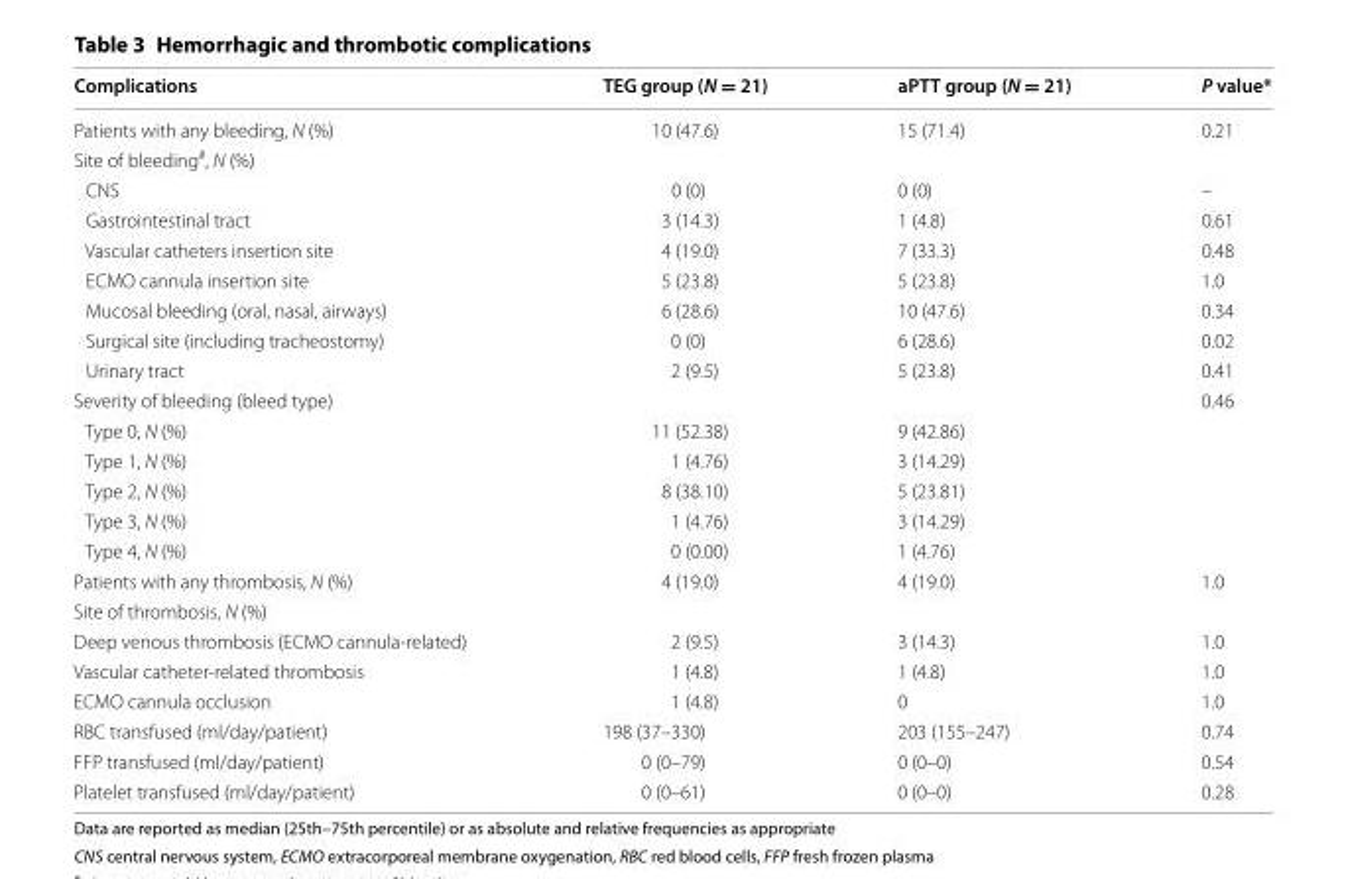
<table><thead><tr><td>Complications</td><td>TEG group (N = 21)</td><td>aPTT group (N = 21)</td><td>P value*</td></tr></thead><tbody><tr><td>Patients with any bleeding, N (%)</td><td>10 (47.6)</td><td>15 (71.4)</td><td>0.21</td></tr><tr><td colspan="4">Site of bleeding<sup>#</sup>, N (%)</td></tr><tr><td>CNS</td><td>0 (0)</td><td>0 (0)</td><td>–</td></tr><tr><td>Gastrointestinal tract</td><td>3 (14.3)</td><td>1 (4.8)</td><td>0.61</td></tr><tr><td>Vascular catheters insertion site</td><td>4 (19.0)</td><td>7 (33.3)</td><td>0.48</td></tr><tr><td>ECMO cannula insertion site</td><td>5 (23.8)</td><td>5 (23.8)</td><td>1.0</td></tr><tr><td>Mucosal bleeding (oral, nasal, airways)</td><td>6 (28.6)</td><td>10 (47.6)</td><td>0.34</td></tr><tr><td>Surgical site (including tracheostomy)</td><td>0 (0)</td><td>6 (28.6)</td><td>0.02</td></tr><tr><td>Urinary tract</td><td>2 (9.5)</td><td>5 (23.8)</td><td>0.41</td></tr><tr><td>Severity of bleeding (bleed type)</td><td></td><td></td><td>0.46</td></tr><tr><td>Type 0, N (%)</td><td>11 (52.38)</td><td>9 (42.86)</td><td></td></tr><tr><td>Type 1, N (%)</td><td>1 (4.76)</td><td>3 (14.29)</td><td></td></tr><tr><td>Type 2, N (%)</td><td>8 (38.10)</td><td>5 (23.81)</td><td></td></tr><tr><td>Type 3, N (%)</td><td>1 (4.76)</td><td>3 (14.29)</td><td></td></tr><tr><td>Type 4, N (%)</td><td>0 (0.00)</td><td>1 (4.76)</td><td></td></tr><tr><td>Patients with any thrombosis, N (%)</td><td>4 (19.0)</td><td>4 (19.0)</td><td>1.0</td></tr><tr><td colspan="4">Site of thrombosis, N (%)</td></tr><tr><td>Deep venous thrombosis (ECMO cannula-related)</td><td>2 (9.5)</td><td>3 (14.3)</td><td>1.0</td></tr><tr><td>Vascular catheter-related thrombosis</td><td>1 (4.8)</td><td>1 (4.8)</td><td>1.0</td></tr><tr><td>ECMO cannula occlusion</td><td>1 (4.8)</td><td>0</td><td>1.0</td></tr><tr><td>RBC transfused (ml/day/patient)</td><td>198 (37–330)</td><td>203 (155–247)</td><td>0.74</td></tr><tr><td>FFP transfused (ml/day/patient)</td><td>0 (0–79)</td><td>0 (0–0)</td><td>0.54</td></tr><tr><td>Platelet transfused (ml/day/patient)</td><td>0 (0–61)</td><td>0 (0–0)</td><td>0.28</td></tr></tbody></table>